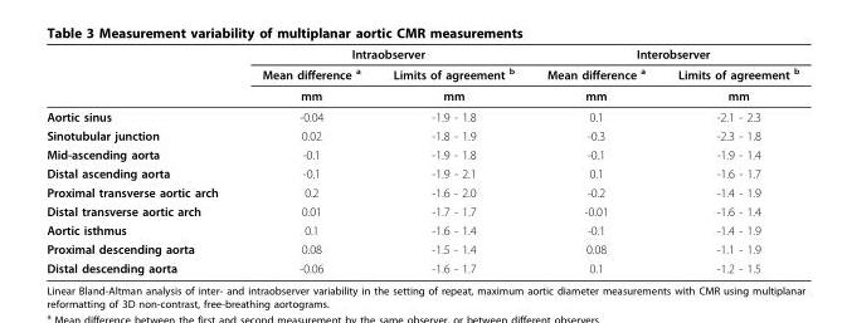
<table><thead><tr><td rowspan="3"></td><td colspan="2">Intraobserver</td><td colspan="2">Interobserver</td></tr><tr><td rowspan="2">Mean difference <sup>a</sup> mm</td><td rowspan="2">Limits of agreement <sup>b</sup> mm</td><td rowspan="2">Mean difference <sup>a</sup> mm</td><td rowspan="2">Limits of agreement <sup>b</sup> mm</td></tr><tr></tr></thead><tbody><tr><td>Aortic sinus</td><td>-0.04</td><td>-1.9 - 1.8</td><td>0.1</td><td>-2.1 - 2.3</td></tr><tr><td>Sinotubular junction</td><td>0.02</td><td>-1.8 - 1.9</td><td>-0.3</td><td>-2.3 - 1.8</td></tr><tr><td>Mid-ascending aorta</td><td>-0.1</td><td>-1.9 - 1.8</td><td>-0.1</td><td>-1.9 - 1.4</td></tr><tr><td>Distal ascending aorta</td><td>-0.1</td><td>-1.9 - 2.1</td><td>0.1</td><td>-1.6 - 1.7</td></tr><tr><td>Proximal transverse aortic arch</td><td>0.2</td><td>-1.6 - 2.0</td><td>-0.2</td><td>-1.4 - 1.9</td></tr><tr><td>Distal transverse aortic arch</td><td>0.01</td><td>-1.7 - 1.7</td><td>-0.01</td><td>-1.6 - 1.4</td></tr><tr><td>Aortic isthmus</td><td>0.1</td><td>-1.6 - 1.4</td><td>-0.1</td><td>-1.4 - 1.9</td></tr><tr><td>Proximal descending aorta</td><td>0.08</td><td>-1.5 - 1.4</td><td>0.08</td><td>-1.1 - 1.9</td></tr><tr><td>Distal descending aorta</td><td>-0.06</td><td>-1.6 - 1.7</td><td>0.1</td><td>-1.2 - 1.5</td></tr></tbody></table>